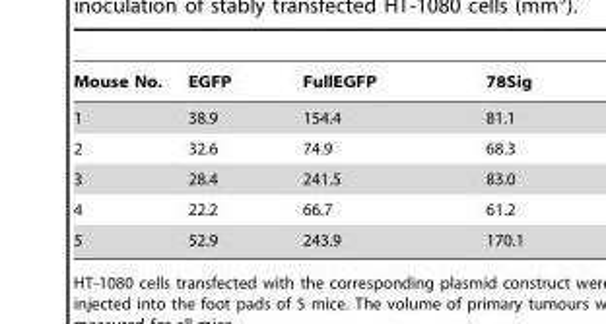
<table><thead><tr><td>Mouse No.</td><td>EGFP</td><td>FullEGFP</td><td>78Sig</td></tr></thead><tbody><tr><td>1</td><td>38.9</td><td>154.4</td><td>81.1</td></tr><tr><td>2</td><td>32.6</td><td>74.9</td><td>68.3</td></tr><tr><td>3</td><td>28.4</td><td>241.5</td><td>83.0</td></tr><tr><td>4</td><td>22.2</td><td>66.7</td><td>61.2</td></tr><tr><td>5</td><td>52.9</td><td>243.9</td><td>170.1</td></tr></tbody></table>